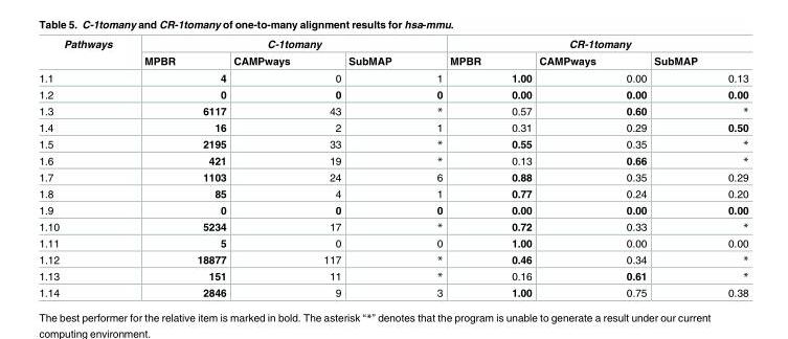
<table><thead><tr><td rowspan="2">Pathways</td><td colspan="3">C-1tomany</td><td colspan="3">CR-1tomany</td></tr><tr><td>MPBR</td><td>CAMPways</td><td>SubMAP</td><td>MPBR</td><td>CAMPways</td><td>SubMAP</td></tr></thead><tbody><tr><td>1.1</td><td>4</td><td>0</td><td>1</td><td>1.00</td><td>0.00</td><td>0.13</td></tr><tr><td>1.2</td><td>0</td><td>0</td><td>0</td><td>0.00</td><td>0.00</td><td>0.00</td></tr><tr><td>1.3</td><td>6117</td><td>43</td><td>*</td><td>0.57</td><td>0.60</td><td>*</td></tr><tr><td>1.4</td><td>16</td><td>2</td><td>1</td><td>0.31</td><td>0.29</td><td>0.50</td></tr><tr><td>1.5</td><td>2195</td><td>33</td><td>*</td><td>0.55</td><td>0.35</td><td>*</td></tr><tr><td>1.6</td><td>421</td><td>19</td><td>*</td><td>0.13</td><td>0.66</td><td>*</td></tr><tr><td>1.7</td><td>1103</td><td>24</td><td>6</td><td>0.88</td><td>0.35</td><td>0.29</td></tr><tr><td>1.8</td><td>85</td><td>4</td><td>1</td><td>0.77</td><td>0.24</td><td>0.20</td></tr><tr><td>1.9</td><td>0</td><td>0</td><td>0</td><td>0.00</td><td>0.00</td><td>0.00</td></tr><tr><td>1.10</td><td>5234</td><td>17</td><td>*</td><td>0.72</td><td>0.33</td><td>*</td></tr><tr><td>1.11</td><td>5</td><td>0</td><td>0</td><td>1.00</td><td>0.00</td><td>0.00</td></tr><tr><td>1.12</td><td>18877</td><td>117</td><td>*</td><td>0.46</td><td>0.34</td><td>*</td></tr><tr><td>1.13</td><td>151</td><td>11</td><td>*</td><td>0.16</td><td>0.61</td><td>*</td></tr><tr><td>1.14</td><td>2846</td><td>9</td><td>3</td><td>1.00</td><td>0.75</td><td>0.38</td></tr></tbody></table>